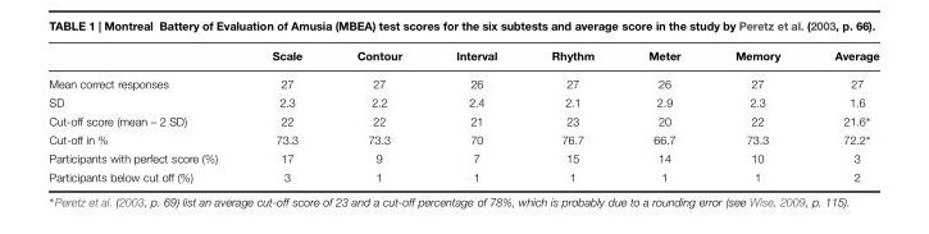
<table><thead><tr><td></td><td>Scale</td><td>Contour</td><td>Interval</td><td>Rhythm</td><td>Meter</td><td>Memory</td><td>Average</td></tr></thead><tbody><tr><td>Mean correct responses</td><td>27</td><td>27</td><td>26</td><td>27</td><td>26</td><td>27</td><td>27</td></tr><tr><td>SD</td><td>2.3</td><td>2.2</td><td>2.4</td><td>2.1</td><td>2.9</td><td>2.3</td><td>1.6</td></tr><tr><td>Cut-off score (mean – 2 SD)</td><td>22</td><td>22</td><td>21</td><td>23</td><td>20</td><td>22</td><td>21.6∗</td></tr><tr><td>Cut-off in %</td><td>73.3</td><td>73.3</td><td>70</td><td>76.7</td><td>66.7</td><td>73.3</td><td>72.2∗</td></tr><tr><td>Participants with perfect score (%)</td><td>17</td><td>9</td><td>7</td><td>15</td><td>14</td><td>10</td><td>3</td></tr><tr><td>Participants below cut off (%)</td><td>3</td><td>1</td><td>1</td><td>1</td><td>1</td><td>1</td><td>2</td></tr></tbody></table>